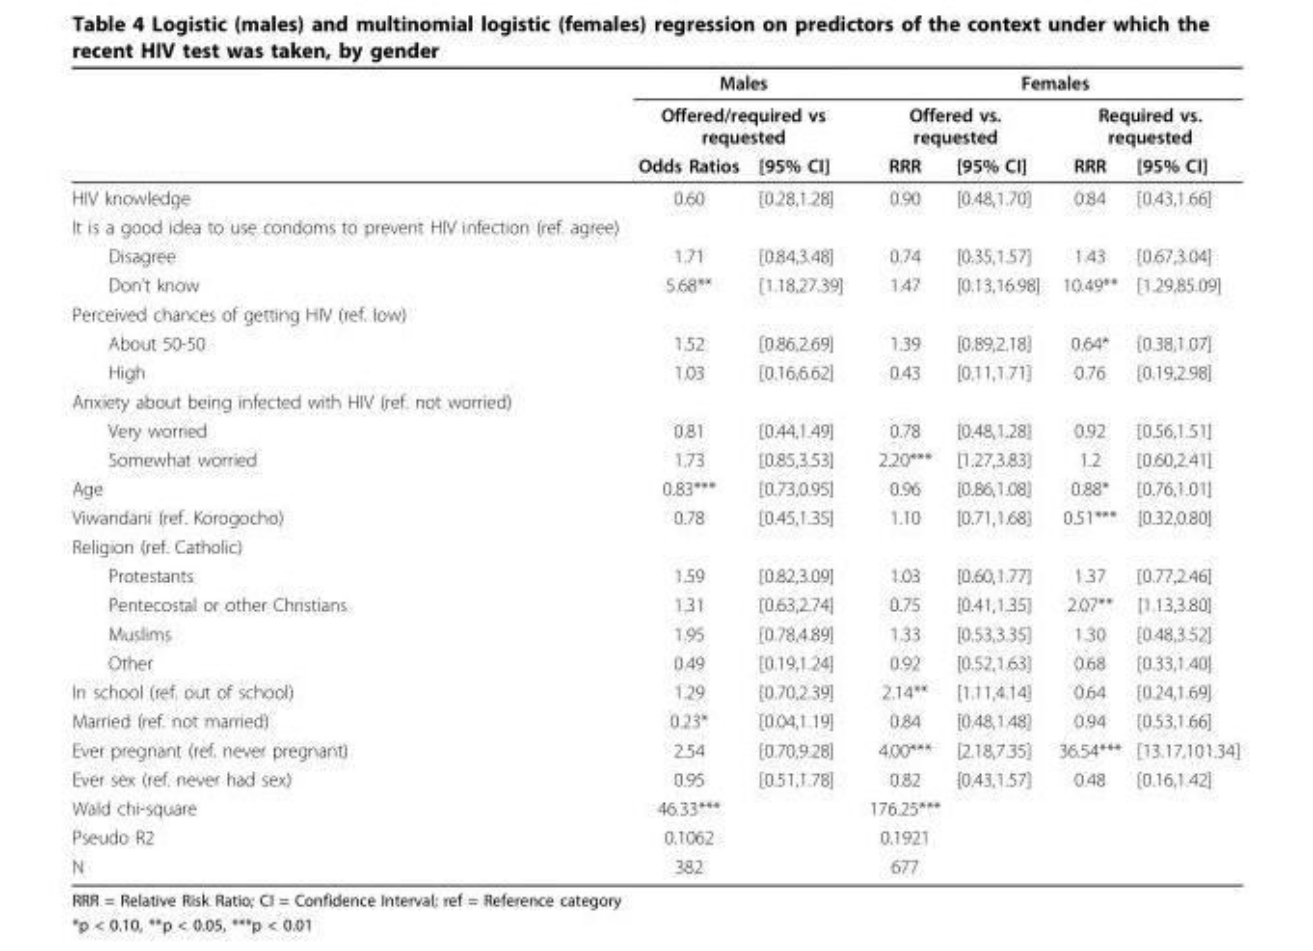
<table><thead><tr><td rowspan="3"></td><td rowspan="2" colspan="2">Males Offered/required vs requested</td><td colspan="4">Females</td></tr><tr><td colspan="2">Offered vs. requested</td><td colspan="2">Required vs. requested</td></tr><tr><td>Odds Ratios</td><td>[95% CI]</td><td>RRR</td><td>[95% CI]</td><td>RRR</td><td>[95% CI]</td></tr></thead><tbody><tr><td>HIV knowledge</td><td>0.60</td><td>[0.28,1.28]</td><td>0.90</td><td>[0.48,1.70]</td><td>0.84</td><td>[0.43,1.66]</td></tr><tr><td colspan="7">It is a good idea to use condoms to prevent HIV infection (ref. agree)</td></tr><tr><td>Disagree</td><td>1.71</td><td>[0.84,3.48]</td><td>0.74</td><td>[0.35,1.57]</td><td>1.43</td><td>[0.67,3.04]</td></tr><tr><td>Don’t know</td><td>5.68**</td><td>[1.18,27.39]</td><td>1.47</td><td>[0.13,16.98]</td><td>10.49**</td><td>[1.29,85.09]</td></tr><tr><td colspan="7">Perceived chances of getting HIV (ref. low)</td></tr><tr><td>About 50-50</td><td>1.52</td><td>[0.86,2.69]</td><td>1.39</td><td>[0.89,2.18]</td><td>0.64*</td><td>[0.38,1.07]</td></tr><tr><td>High</td><td>1.03</td><td>[0.16,6.62]</td><td>0.43</td><td>[0.11,1.71]</td><td>0.76</td><td>[0.19,2.98]</td></tr><tr><td colspan="7">Anxiety about being infected with HIV (ref. not worried)</td></tr><tr><td>Very worried</td><td>0.81</td><td>[0.44,1.49]</td><td>0.78</td><td>[0.48,1.28]</td><td>0.92</td><td>[0.56,1.51]</td></tr><tr><td>Somewhat worried</td><td>1.73</td><td>[0.85,3.53]</td><td>2.20***</td><td>[1.27,3.83]</td><td>1.2</td><td>[0.60,2.41]</td></tr><tr><td>Age</td><td>0.83***</td><td>[0.73,0.95]</td><td>0.96</td><td>[0.86,1.08]</td><td>0.88*</td><td>[0.76,1.01]</td></tr><tr><td>Viwandani (ref. Korogocho)</td><td>0.78</td><td>[0.45,1.35]</td><td>1.10</td><td>[0.71,1.68]</td><td>0.51***</td><td>[0.32,0.80]</td></tr><tr><td colspan="7">Religion (ref. Catholic)</td></tr><tr><td>Protestants</td><td>1.59</td><td>[0.82,3.09]</td><td>1.03</td><td>[0.60,1.77]</td><td>1.37</td><td>[0.77,2.46]</td></tr><tr><td>Pentecostal or other Christians</td><td>1.31</td><td>[0.63,2.74]</td><td>0.75</td><td>[0.41,1.35]</td><td>2.07**</td><td>[1.13,3.80]</td></tr><tr><td>Muslims</td><td>1.95</td><td>[0.78,4.89]</td><td>1.33</td><td>[0.53,3.35]</td><td>1.30</td><td>[0.48,3.52]</td></tr><tr><td>Other</td><td>0.49</td><td>[0.19,1.24]</td><td>0.92</td><td>[0.52,1.63]</td><td>0.68</td><td>[0.33,1.40]</td></tr><tr><td>In school (ref. out of school)</td><td>1.29</td><td>[0.70,2.39]</td><td>2.14**</td><td>[1.11,4.14]</td><td>0.64</td><td>[0.24,1.69]</td></tr><tr><td>Married (ref. not married)</td><td>0.23*</td><td>[0.04,1.19]</td><td>0.84</td><td>[0.48,1.48]</td><td>0.94</td><td>[0.53,1.66]</td></tr><tr><td>Ever pregnant (ref. never pregnant)</td><td>2.54</td><td>[0.70,9.28]</td><td>4.00***</td><td>[2.18,7.35]</td><td>36.54***</td><td>[13.17,101.34]</td></tr><tr><td>Ever sex (ref. never had sex)</td><td>0.95</td><td>[0.51,1.78]</td><td>0.82</td><td>[0.43,1.57]</td><td>0.48</td><td>[0.16,1.42]</td></tr><tr><td>Wald chi-square</td><td>46.33***</td><td></td><td>176.25***</td><td></td><td></td><td></td></tr><tr><td>Pseudo R2</td><td>0.1062</td><td></td><td>0.1921</td><td></td><td></td><td></td></tr><tr><td>N</td><td>382</td><td></td><td>677</td><td></td><td></td><td></td></tr></tbody></table>